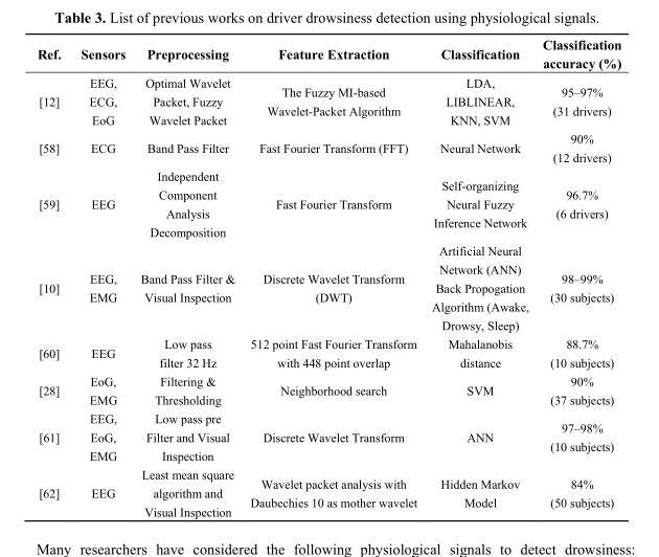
<table><thead><tr><td>Ref.</td><td>Sensors</td><td>Preprocessing</td><td>Feature Extraction</td><td>Classification</td><td>Classification accuracy (%)</td></tr></thead><tbody><tr><td>[12]</td><td>EEG, ECG, EoG</td><td>Optimal Wavelet Packet, Fuzzy Wavelet Packet</td><td>The Fuzzy MI-based Wavelet-Packet Algorithm</td><td>LDA, LIBLINEAR, KNN, SVM</td><td>95–97% (31 drivers)</td></tr><tr><td>[58]</td><td>ECG</td><td>Band Pass Filter</td><td>Fast Fourier Transform (FFT)</td><td>Neural Network</td><td>90% (12 drivers)</td></tr><tr><td>[59]</td><td>EEG</td><td>Independent Component Analysis Decomposition</td><td>Fast Fourier Transform</td><td>Self-organizing Neural Fuzzy Inference Network</td><td>96.7% (6 drivers)</td></tr><tr><td>[10]</td><td>EEG, EMG</td><td>Band Pass Filter &amp; Visual Inspection</td><td>Discrete Wavelet Transform (DWT)</td><td>Artificial Neural Network (ANN) Back Propogation Algorithm (Awake, Drowsy, Sleep)</td><td>98–99% (30 subjects)</td></tr><tr><td>[60]</td><td>EEG</td><td>Low pass filter 32 Hz</td><td>512 point Fast Fourier Transform with 448 point overlap</td><td>Mahalanobis distance</td><td>88.7% (10 subjects)</td></tr><tr><td>[28]</td><td>EoG, EMG</td><td>Filtering &amp; Thresholding</td><td>Neighborhood search</td><td>SVM</td><td>90% (37 subjects)</td></tr><tr><td>[61]</td><td>EEG, EoG, EMG</td><td>Low pass pre Filter and Visual Inspection</td><td>Discrete Wavelet Transform</td><td>ANN</td><td>97–98% (10 subjects)</td></tr><tr><td>[62]</td><td>EEG</td><td>Least mean square algorithm and Visual Inspection</td><td>Wavelet packet analysis with Daubechies 10 as mother wavelet</td><td>Hidden Markov Model</td><td>84% (50 subjects)</td></tr></tbody></table>